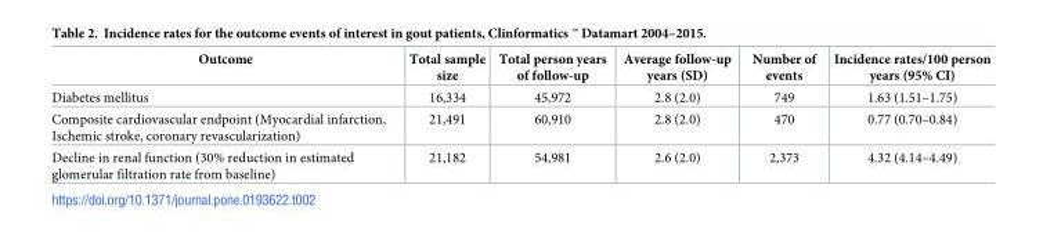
<table><thead><tr><td>Outcome</td><td>Total sample size</td><td>Total person years of follow-up</td><td>Average follow-up years (SD)</td><td>Number of events</td><td>Incidence rates/100 person years (95% CI)</td></tr></thead><tbody><tr><td>Diabetes mellitus</td><td>16,334</td><td>45,972</td><td>2.8 (2.0)</td><td>749</td><td>1.63 (1.51–1.75)</td></tr><tr><td>Composite cardiovascular endpoint (Myocardial infarction, Ischemic stroke, coronary revascularization)</td><td>21,491</td><td>60,910</td><td>2.8 (2.0)</td><td>470</td><td>0.77 (0.70–0.84)</td></tr><tr><td>Decline in renal function (30% reduction in estimated glomerular filtration rate from baseline)</td><td>21,182</td><td>54,981</td><td>2.6 (2.0)</td><td>2,373</td><td>4.32 (4.14–4.49)</td></tr></tbody></table>